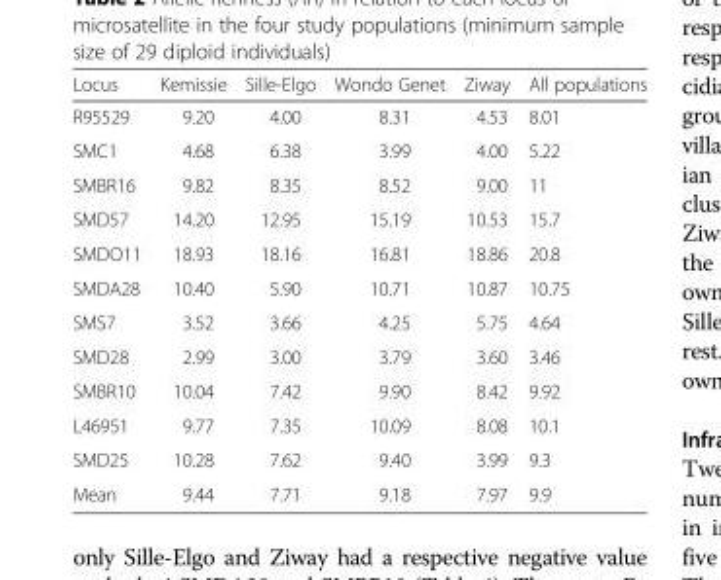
<table><thead><tr><td>Locus</td><td>Kemissie</td><td>Sille-Elgo</td><td>Wondo Genet</td><td>Ziway</td><td>All populations</td></tr></thead><tbody><tr><td>R95529</td><td>9.20</td><td>4.00</td><td>8.31</td><td>4.53</td><td>8.01</td></tr><tr><td>SMC1</td><td>4.68</td><td>6.38</td><td>3.99</td><td>4.00</td><td>5.22</td></tr><tr><td>SMBR16</td><td>9.82</td><td>8.35</td><td>8.52</td><td>9.00</td><td>11</td></tr><tr><td>SMD57</td><td>14.20</td><td>12.95</td><td>15.19</td><td>10.53</td><td>15.7</td></tr><tr><td>SMDO11</td><td>18.93</td><td>18.16</td><td>16.81</td><td>18.86</td><td>20.8</td></tr><tr><td>SMDA28</td><td>10.40</td><td>5.90</td><td>10.71</td><td>10.87</td><td>10.75</td></tr><tr><td>SMS7</td><td>3.52</td><td>3.66</td><td>4.25</td><td>5.75</td><td>4.64</td></tr><tr><td>SMD28</td><td>2.99</td><td>3.00</td><td>3.79</td><td>3.60</td><td>3.46</td></tr><tr><td>SMBR10</td><td>10.04</td><td>7.42</td><td>9.90</td><td>8.42</td><td>9.92</td></tr><tr><td>L46951</td><td>9.77</td><td>7.35</td><td>10.09</td><td>8.08</td><td>10.1</td></tr><tr><td>SMD25</td><td>10.28</td><td>7.62</td><td>9.40</td><td>3.99</td><td>9.3</td></tr><tr><td>Mean</td><td>9.44</td><td>7.71</td><td>9.18</td><td>7.97</td><td>9.9</td></tr></tbody></table>